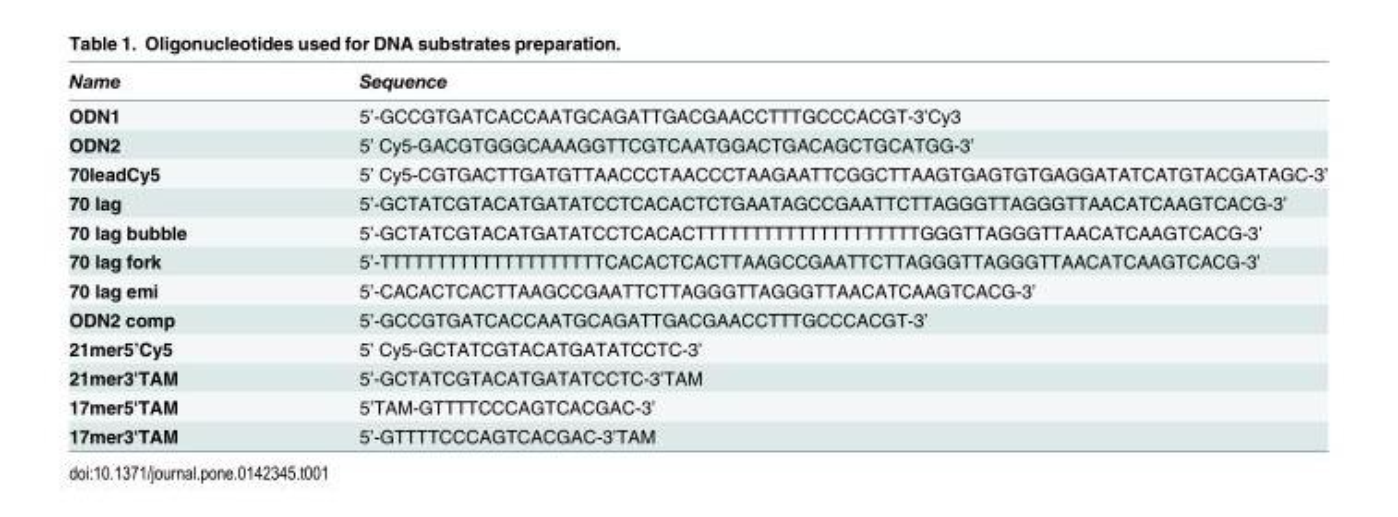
<table><thead><tr><td>Name</td><td>Sequence</td></tr></thead><tbody><tr><td>ODN1</td><td>5’-GCCGTGATCACCAATGCAGATTGACGAACCTTTGCCCACGT-3’Cy3</td></tr><tr><td>ODN2</td><td>5’ Cy5-GACGTGGGCAAAGGTTCGTCAATGGACTGACAGCTGCATGG-3’</td></tr><tr><td>70leadCy5</td><td>5’ Cy5-CGTGACTTGATGTTAACCCTAACCCTAAGAATTCGGCTTAAGTGAGTGTGAGGATATCATGTACGATAGC-3’</td></tr><tr><td>70 lag</td><td>5’-GCTATCGTACATGATATCCTCACACTCTGAATAGCCGAATTCTTAGGGTTAGGGTTAACATCAAGTCACG-3’</td></tr><tr><td>70 lag bubble</td><td>5’-GCTATCGTACATGATATCCTCACACTTTTTTTTTTTTTTTTTTTTGGGTTAGGGTTAACATCAAGTCACG-3’</td></tr><tr><td>70 lag fork</td><td>5’-TTTTTTTTTTTTTTTTTTTTCACACTCACTTAAGCCGAATTCTTAGGGTTAGGGTTAACATCAAGTCACG-3’</td></tr><tr><td>70 lag emi</td><td>5’-CACACTCACTTAAGCCGAATTCTTAGGGTTAGGGTTAACATCAAGTCACG-3’</td></tr><tr><td>ODN2 comp</td><td>5’-GCCGTGATCACCAATGCAGATTGACGAACCTTTGCCCACGT-3’</td></tr><tr><td>21mer5’Cy5</td><td>5’ Cy5-GCTATCGTACATGATATCCTC-3’</td></tr><tr><td>21mer3&#x27;TAM</td><td>5’-GCTATCGTACATGATATCCTC-3’TAM</td></tr><tr><td>17mer5&#x27;TAM</td><td>5’TAM-GTTTTCCCAGTCACGAC-3’</td></tr><tr><td>17mer3&#x27;TAM</td><td>5’-GTTTTCCCAGTCACGAC-3’TAM</td></tr></tbody></table>